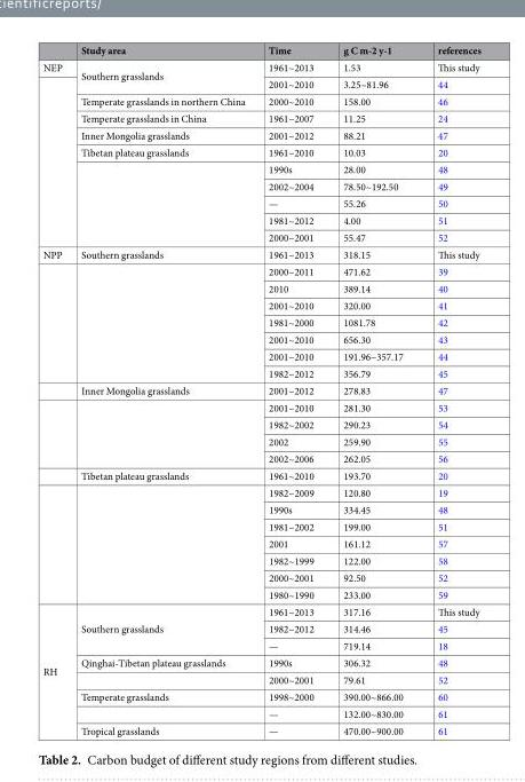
<table><thead><tr><td></td><td>Study area</td><td>Time</td><td>g C m-2 y-1</td><td>references</td></tr></thead><tbody><tr><td rowspan="11">NEP</td><td rowspan="2">Southern grasslands</td><td>1961~2013</td><td>1.53</td><td>This study</td></tr><tr><td>2001~2010</td><td>3.25~81.96</td><td>44</td></tr><tr><td>Temperate grasslands in northern China</td><td>2000~2010</td><td>158.00</td><td>46</td></tr><tr><td>Temperate grasslands in China</td><td>1961~2007</td><td>11.25</td><td>24</td></tr><tr><td>Inner Mongolia grasslands</td><td>2001~2012</td><td>88.21</td><td>47</td></tr><tr><td>Tibetan plateau grasslands</td><td>1961~2010</td><td>10.03</td><td>20</td></tr><tr><td rowspan="5"></td><td>1990s</td><td>28.00</td><td>48</td></tr><tr><td>2002~2004</td><td>78.50~192.50</td><td>49</td></tr><tr><td>—</td><td>55.26</td><td>50</td></tr><tr><td>1981~2012</td><td>4.00</td><td>51</td></tr><tr><td>2000~2001</td><td>55.47</td><td>52</td></tr><tr><td rowspan="21">NPP</td><td>Southern grasslands</td><td>1961~2013</td><td>318.15</td><td>This study</td></tr><tr><td rowspan="7"></td><td>2000~2011</td><td>471.62</td><td>39</td></tr><tr><td>2010</td><td>389.14</td><td>40</td></tr><tr><td>2001~2010</td><td>320.00</td><td>41</td></tr><tr><td>1981~2000</td><td>1081.78</td><td>42</td></tr><tr><td>2001~2010</td><td>656.30</td><td>43</td></tr><tr><td>2001~2010</td><td>191.96~357.17</td><td>44</td></tr><tr><td>1982~2012</td><td>356.79</td><td>45</td></tr><tr><td>Inner Mongolia grasslands</td><td>2001~2012</td><td>278.83</td><td>47</td></tr><tr><td rowspan="4"></td><td>2001~2010</td><td>281.30</td><td>53</td></tr><tr><td>1982~2002</td><td>290.23</td><td>54</td></tr><tr><td>2002</td><td>259.90</td><td>55</td></tr><tr><td>2002~2006</td><td>262.05</td><td>56</td></tr><tr><td>Tibetan plateau grasslands</td><td>1961~2010</td><td>193.70</td><td>20</td></tr><tr><td rowspan="7"></td><td>1982~2009</td><td>120.80</td><td>19</td></tr><tr><td>1990s</td><td>334.45</td><td>48</td></tr><tr><td>1981~2002</td><td>199.00</td><td>51</td></tr><tr><td>2001</td><td>161.12</td><td>57</td></tr><tr><td>1982~1999</td><td>122.00</td><td>58</td></tr><tr><td>2000~2001</td><td>92.50</td><td>52</td></tr><tr><td>1980~1990</td><td>233.00</td><td>59</td></tr><tr><td rowspan="8">RH</td><td rowspan="3">Southern grasslands</td><td>1961~2013</td><td>317.16</td><td>This study</td></tr><tr><td>1982~2012</td><td>314.46</td><td>45</td></tr><tr><td>—</td><td>719.14</td><td>18</td></tr><tr><td>Qinghai-Tibetan plateau grasslands</td><td>1990s</td><td>306.32</td><td>48</td></tr><tr><td></td><td>2000~2001</td><td>79.61</td><td>52</td></tr><tr><td>Temperate grasslands</td><td>1998~2000</td><td>390.00~866.00</td><td>60</td></tr><tr><td></td><td>—</td><td>132.00~830.00</td><td>61</td></tr><tr><td>Tropical grasslands</td><td>—</td><td>470.00~900.00</td><td>61</td></tr></tbody></table>